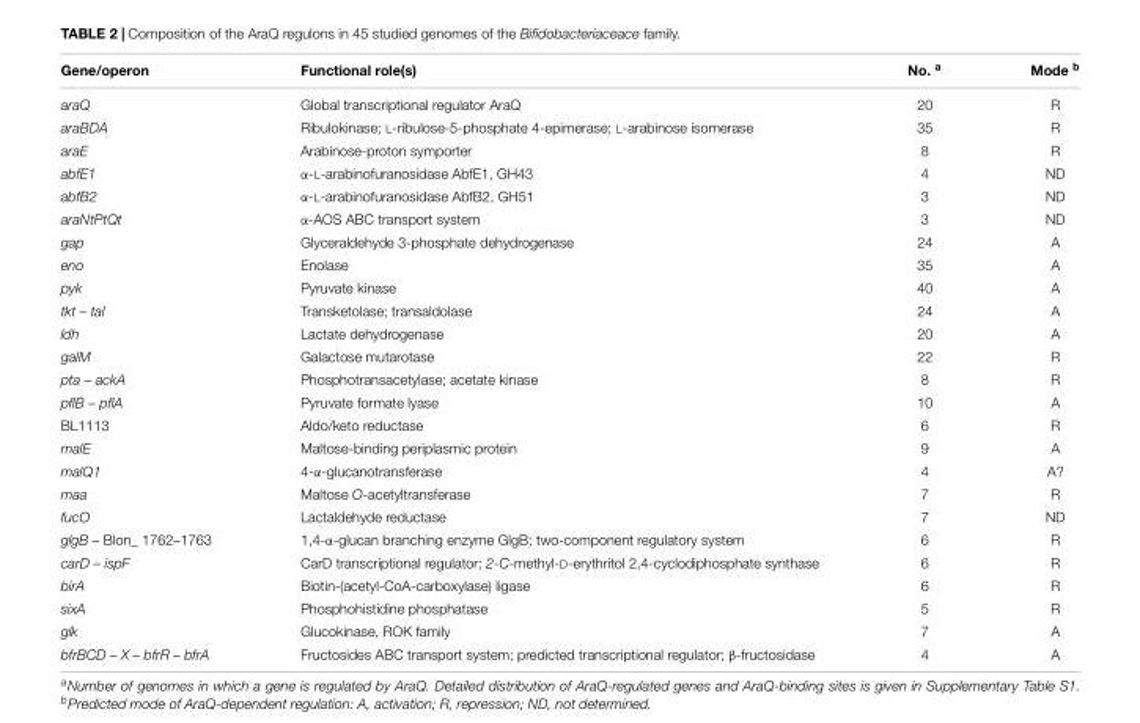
<table><thead><tr><td>Gene/operon</td><td>Functional role(s)</td><td>No. <sup>a</sup></td><td>Mode <sup>b</sup></td></tr></thead><tbody><tr><td>araQ</td><td>Global transcriptional regulator AraQ</td><td>20</td><td>R</td></tr><tr><td>araBDA</td><td>Ribulokinase; L-ribulose-5-phosphate 4-epimerase; L-arabinose isomerase</td><td>35</td><td>R</td></tr><tr><td>araE</td><td>Arabinose-proton symporter</td><td>8</td><td>R</td></tr><tr><td>abfE1</td><td>α-L-arabinofuranosidase AbfE1, GH43</td><td>4</td><td>ND</td></tr><tr><td>abfB2</td><td>α-L-arabinofuranosidase AbfB2, GH51</td><td>3</td><td>ND</td></tr><tr><td>araNtPtQt</td><td>α-AOS ABC transport system</td><td>3</td><td>ND</td></tr><tr><td>gap</td><td>Glyceraldehyde 3-phosphate dehydrogenase</td><td>24</td><td>A</td></tr><tr><td>eno</td><td>Enolase</td><td>35</td><td>A</td></tr><tr><td>pyk</td><td>Pyruvate kinase</td><td>40</td><td>A</td></tr><tr><td>tkt – tal</td><td>Transketolase; transaldolase</td><td>24</td><td>A</td></tr><tr><td>ldh</td><td>Lactate dehydrogenase</td><td>20</td><td>A</td></tr><tr><td>galM</td><td>Galactose mutarotase</td><td>22</td><td>R</td></tr><tr><td>pta – ackA</td><td>Phosphotransacetylase; acetate kinase</td><td>8</td><td>R</td></tr><tr><td>pflB – pflA</td><td>Pyruvate formate lyase</td><td>10</td><td>A</td></tr><tr><td>BL1113</td><td>Aldo/keto reductase</td><td>6</td><td>R</td></tr><tr><td>malE</td><td>Maltose-binding periplasmic protein</td><td>9</td><td>A</td></tr><tr><td>malQ1</td><td>4-α-glucanotransferase</td><td>4</td><td>A?</td></tr><tr><td>maa</td><td>Maltose O-acetyltransferase</td><td>7</td><td>R</td></tr><tr><td>fucO</td><td>Lactaldehyde reductase</td><td>7</td><td>ND</td></tr><tr><td>glgB – Blon_ 1762–1763</td><td>1,4-α-glucan branching enzyme GlgB; two-component regulatory system</td><td>6</td><td>R</td></tr><tr><td>carD – ispF</td><td>CarD transcriptional regulator; 2-C-methyl-D-erythritol 2,4-cyclodiphosphate synthase</td><td>6</td><td>R</td></tr><tr><td>birA</td><td>Biotin-(acetyl-CoA-carboxylase) ligase</td><td>6</td><td>R</td></tr><tr><td>sixA</td><td>Phosphohistidine phosphatase</td><td>5</td><td>R</td></tr><tr><td>glk</td><td>Glucokinase, ROK family</td><td>7</td><td>A</td></tr><tr><td>bfrBCD – X – bfrR – bfrA</td><td>Fructosides ABC transport system; predicted transcriptional regulator; β-fructosidase</td><td>4</td><td>A</td></tr></tbody></table>